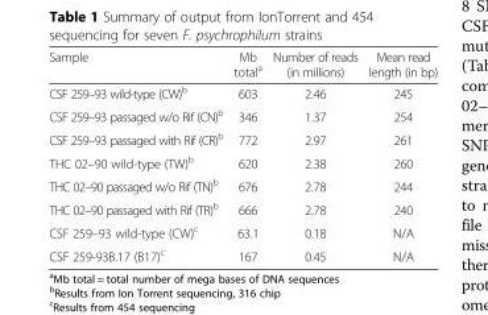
<table><thead><tr><td>Sample</td><td>Mb total<sup>a</sup></td><td>Number of reads (in millions)</td><td>Mean read length (in bp)</td></tr></thead><tbody><tr><td>CSF 259–93 wild-type (CW)<sup>b</sup></td><td>603</td><td>2.46</td><td>245</td></tr><tr><td>CSF 259–93 passaged w/o Rif (CN)<sup>b</sup></td><td>346</td><td>1.37</td><td>254</td></tr><tr><td>CSF 259–93 passaged with Rif (CR)<sup>b</sup></td><td>772</td><td>2.97</td><td>261</td></tr><tr><td>THC 02–90 wild-type (TW)<sup>b</sup></td><td>620</td><td>2.38</td><td>260</td></tr><tr><td>THC 02–90 passaged w/o Rif (TN)<sup>b</sup></td><td>676</td><td>2.78</td><td>244</td></tr><tr><td>THC 02–90 passaged with Rif (TR)<sup>b</sup></td><td>666</td><td>2.78</td><td>240</td></tr><tr><td>CSF 259–93 wild-type (CW)<sup>c</sup></td><td>63.1</td><td>0.18</td><td>N/A</td></tr><tr><td>CSF 259-93B.17 (B17)<sup>c</sup></td><td>167</td><td>0.45</td><td>N/A</td></tr></tbody></table>